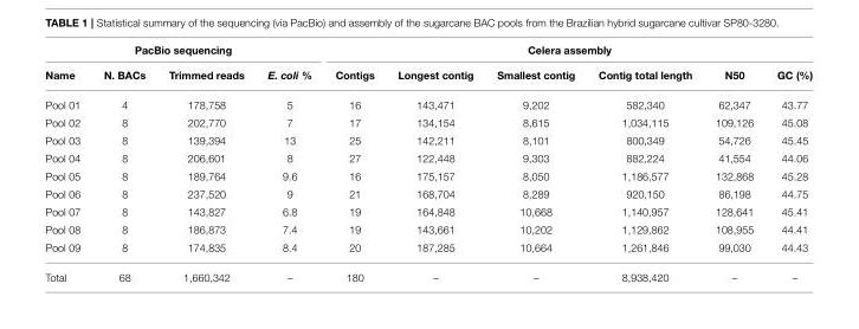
<table><thead><tr><td colspan="4">PacBio sequencing</td><td colspan="6">Celera assembly</td></tr><tr><td>Name</td><td>N. BACs</td><td>Trimmed reads</td><td>E. coli %</td><td>Contigs</td><td>Longest contig</td><td>Smallest contig</td><td>Contig total length</td><td>N50</td><td>GC (%)</td></tr></thead><tbody><tr><td>Pool 01</td><td>4</td><td>178,758</td><td>5</td><td>16</td><td>143,471</td><td>9,202</td><td>582,340</td><td>62,347</td><td>43.77</td></tr><tr><td>Pool 02</td><td>8</td><td>202,770</td><td>7</td><td>17</td><td>134,154</td><td>8,615</td><td>1,034,115</td><td>109,126</td><td>45.08</td></tr><tr><td>Pool 03</td><td>8</td><td>139,394</td><td>13</td><td>25</td><td>142,211</td><td>8,101</td><td>800,349</td><td>54,726</td><td>45.45</td></tr><tr><td>Pool 04</td><td>8</td><td>206,601</td><td>8</td><td>27</td><td>122,448</td><td>9,303</td><td>882,224</td><td>41,554</td><td>44.06</td></tr><tr><td>Pool 05</td><td>8</td><td>189,764</td><td>9.6</td><td>16</td><td>175,157</td><td>8,050</td><td>1,186,577</td><td>132,868</td><td>45.28</td></tr><tr><td>Pool 06</td><td>8</td><td>237,520</td><td>9</td><td>21</td><td>168,704</td><td>8,289</td><td>920,150</td><td>86,198</td><td>44.75</td></tr><tr><td>Pool 07</td><td>8</td><td>143,827</td><td>6.8</td><td>19</td><td>164,848</td><td>10,668</td><td>1,140,957</td><td>128,641</td><td>45.41</td></tr><tr><td>Pool 08</td><td>8</td><td>186,873</td><td>7.4</td><td>19</td><td>143,661</td><td>10,202</td><td>1,129,862</td><td>108,955</td><td>44.41</td></tr><tr><td>Pool 09</td><td>8</td><td>174,835</td><td>8.4</td><td>20</td><td>187,285</td><td>10,664</td><td>1,261,846</td><td>99,030</td><td>44.43</td></tr><tr><td>Total</td><td>68</td><td>1,660,342</td><td>–</td><td>180</td><td>–</td><td>–</td><td>8,938,420</td><td>–</td><td>–</td></tr></tbody></table>